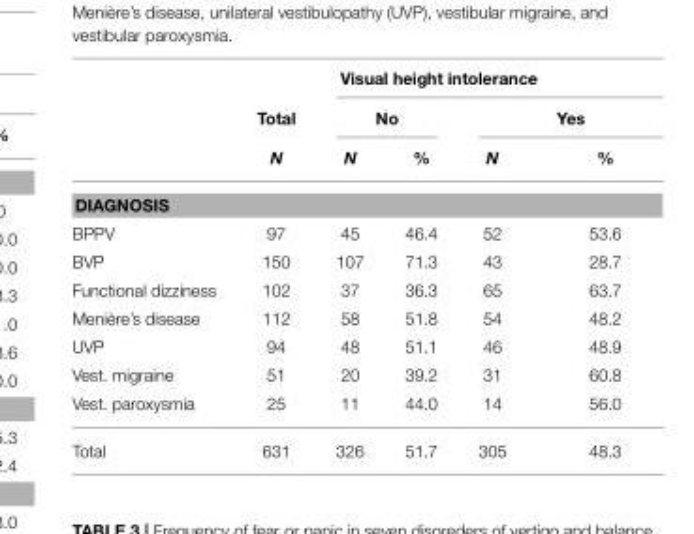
<table><thead><tr><td rowspan="3"></td><td rowspan="3">Total N</td><td colspan="4">Visual height intolerance</td></tr><tr><td colspan="2">No</td><td colspan="2">Yes</td></tr><tr><td>N</td><td>%</td><td>N</td><td>%</td></tr></thead><tbody><tr><td colspan="6">DIAGNOSIS</td></tr><tr><td>BPPV</td><td>97</td><td>45</td><td>46.4</td><td>52</td><td>53.6</td></tr><tr><td>BVP</td><td>150</td><td>107</td><td>71.3</td><td>43</td><td>28.7</td></tr><tr><td>Functional dizziness</td><td>102</td><td>37</td><td>36.3</td><td>65</td><td>63.7</td></tr><tr><td>Menière’s disease</td><td>112</td><td>58</td><td>51.8</td><td>54</td><td>48.2</td></tr><tr><td>UVP</td><td>94</td><td>48</td><td>51.1</td><td>46</td><td>48.9</td></tr><tr><td>Vest. migraine</td><td>51</td><td>20</td><td>39.2</td><td>31</td><td>60.8</td></tr><tr><td>Vest. paroxysmia</td><td>25</td><td>11</td><td>44.0</td><td>14</td><td>56.0</td></tr><tr><td>Total</td><td>631</td><td>326</td><td>51.7</td><td>305</td><td>48.3</td></tr></tbody></table>